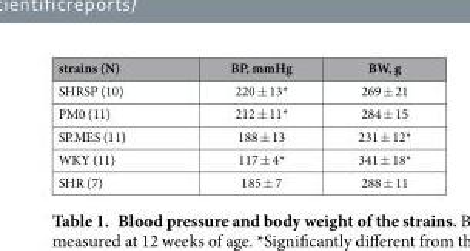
<table><thead><tr><td>strains (N)</td><td>BP, mmHg</td><td>BW, g</td></tr></thead><tbody><tr><td>SHRSP (10)</td><td>220 ± 13*</td><td>269 ± 21</td></tr><tr><td>PM0 (11)</td><td>212 ± 11*</td><td>284 ± 15</td></tr><tr><td>SP.MES (11)</td><td>188 ± 13</td><td>231 ± 12*</td></tr><tr><td>WKY (11)</td><td>117 ± 4*</td><td>341 ± 18*</td></tr><tr><td>SHR (7)</td><td>185 ± 7</td><td>288 ± 11</td></tr></tbody></table>